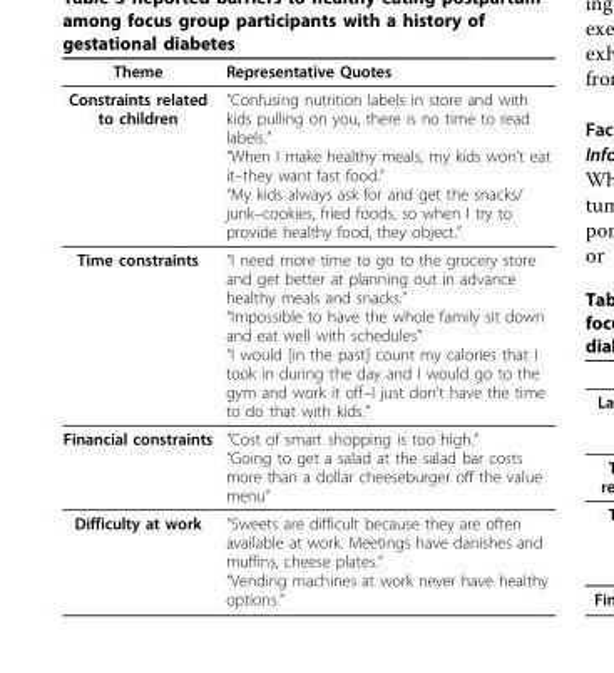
<table><thead><tr><td>Theme</td><td>Representative Quotes</td></tr></thead><tbody><tr><td>Constraints related to children</td><td>“Confusing nutrition labels in store and with kids pulling on you, there is no time to read labels.” “When I make healthy meals, my kids won’t eat it–they want fast food.” “My kids always ask for and get the snacks/ junk–cookies, fried foods, so when I try to provide healthy food, they object.”</td></tr><tr><td>Time constraints</td><td>“I need more time to go to the grocery store and get better at planning out in advance healthy meals and snacks.” “Impossible to have the whole family sit down and eat well with schedules” “I would [in the past] count my calories that I took in during the day and I would go to the gym and work it off–I just don’t have the time to do that with kids.”</td></tr><tr><td>Financial constraints</td><td>“Cost of smart shopping is too high.” “Going to get a salad at the salad bar costs more than a dollar cheeseburger off the value menu”</td></tr><tr><td>Difficulty at work</td><td>“Sweets are difficult because they are often available at work. Meetings have danishes and muffins, cheese plates.” “Vending machines at work never have healthy options.”</td></tr></tbody></table>